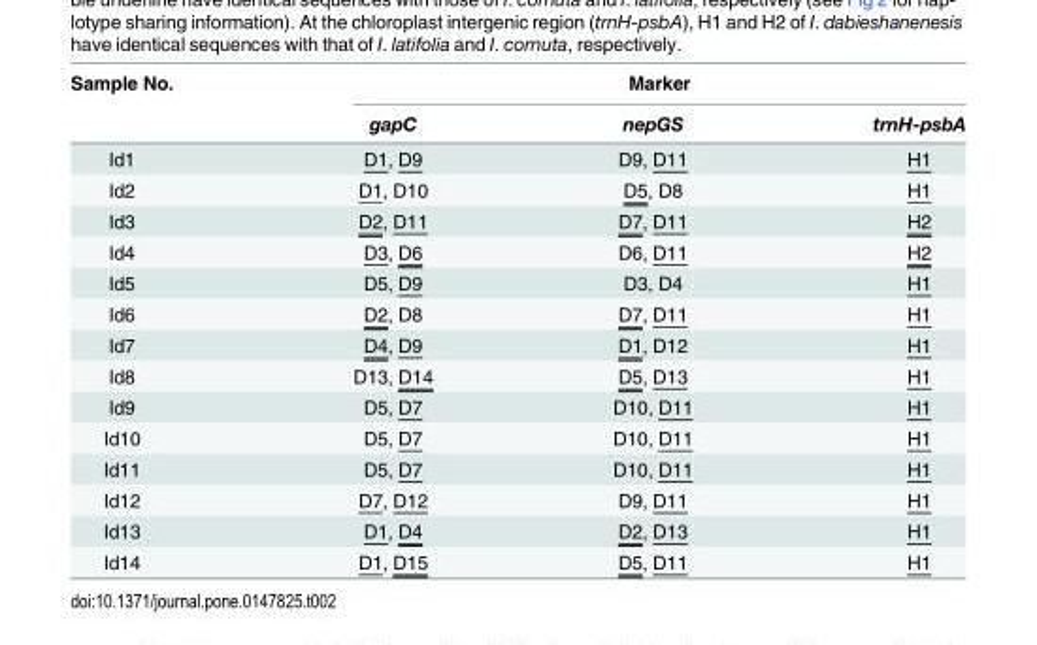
<table><thead><tr><td rowspan="2">Sample No.</td><td colspan="3">Marker</td></tr><tr><td>gapC</td><td>nepGS</td><td>trnH-psbA</td></tr></thead><tbody><tr><td>Id1</td><td>D1, D9</td><td>D9, D11</td><td>H1</td></tr><tr><td>Id2</td><td>D1, D10</td><td>D5, D8</td><td>H1</td></tr><tr><td>Id3</td><td>D2, D11</td><td>D7, D11</td><td>H2</td></tr><tr><td>Id4</td><td>D3, D6</td><td>D6, D11</td><td>H2</td></tr><tr><td>Id5</td><td>D5, D9</td><td>D3, D4</td><td>H1</td></tr><tr><td>Id6</td><td>D2, D8</td><td>D7, D11</td><td>H1</td></tr><tr><td>Id7</td><td>D4, D9</td><td>D1, D12</td><td>H1</td></tr><tr><td>Id8</td><td>D13, D14</td><td>D5, D13</td><td>H1</td></tr><tr><td>Id9</td><td>D5, D7</td><td>D10, D11</td><td>H1</td></tr><tr><td>Id10</td><td>D5, D7</td><td>D10, D11</td><td>H1</td></tr><tr><td>Id11</td><td>D5, D7</td><td>D10, D11</td><td>H1</td></tr><tr><td>Id12</td><td>D7, D12</td><td>D9, D11</td><td>H1</td></tr><tr><td>Id13</td><td>D1, D4</td><td>D2, D13</td><td>H1</td></tr><tr><td>Id14</td><td>D1, D15</td><td>D5, D11</td><td>H1</td></tr></tbody></table>